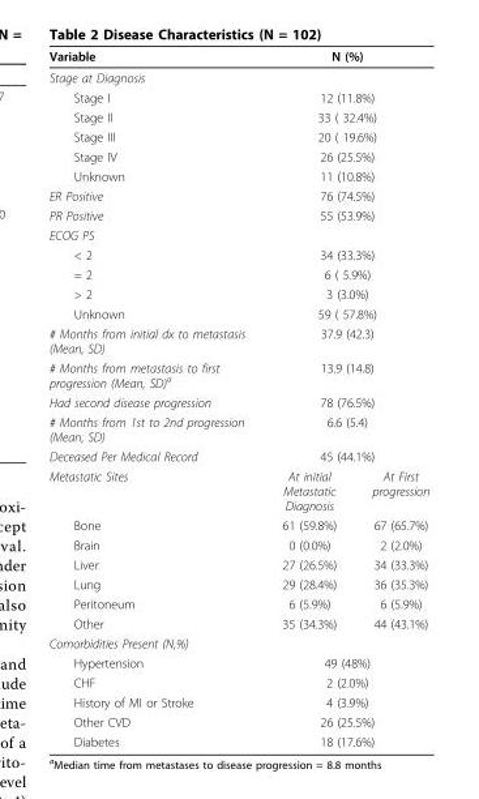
<table><thead><tr><td>Variable</td><td colspan="2">N (%)</td></tr></thead><tbody><tr><td colspan="3">Stage at Diagnosis</td></tr><tr><td>Stage I</td><td colspan="2">12 (11.8%)</td></tr><tr><td>Stage II</td><td colspan="2">33 ( 32.4%)</td></tr><tr><td>Stage III</td><td colspan="2">20 ( 19.6%)</td></tr><tr><td>Stage IV</td><td colspan="2">26 (25.5%)</td></tr><tr><td>Unknown</td><td colspan="2">11 (10.8%)</td></tr><tr><td>ER Positive</td><td colspan="2">76 (74.5%)</td></tr><tr><td>PR Positive</td><td colspan="2">55 (53.9%)</td></tr><tr><td colspan="3">ECOG PS</td></tr><tr><td>&lt; 2</td><td colspan="2">34 (33.3%)</td></tr><tr><td>= 2</td><td colspan="2">6 ( 5.9%)</td></tr><tr><td>&gt; 2</td><td colspan="2">3 (3.0%)</td></tr><tr><td>Unknown</td><td colspan="2">59 ( 57.8%)</td></tr><tr><td># Months from initial dx to metastasis (Mean, SD)</td><td colspan="2">37.9 (42.3)</td></tr><tr><td># Months from metastasis to first progression (Mean, SD)<sup>a</sup></td><td colspan="2">13.9 (14.8)</td></tr><tr><td>Had second disease progression</td><td colspan="2">78 (76.5%)</td></tr><tr><td># Months from 1st to 2nd progression (Mean, SD)</td><td colspan="2">6.6 (5.4)</td></tr><tr><td>Deceased Per Medical Record</td><td colspan="2">45 (44.1%)</td></tr><tr><td>Metastatic Sites</td><td>At initial Metastatic Diagnosis</td><td>At First progression</td></tr><tr><td>Bone</td><td>61 (59.8%)</td><td>67 (65.7%)</td></tr><tr><td>Brain</td><td>0 (0.0%)</td><td>2 (2.0%)</td></tr><tr><td>Liver</td><td>27 (26.5%)</td><td>34 (33.3%)</td></tr><tr><td>Lung</td><td>29 (28.4%)</td><td>36 (35.3%)</td></tr><tr><td>Peritoneum</td><td>6 (5.9%)</td><td>6 (5.9%)</td></tr><tr><td>Other</td><td>35 (34.3%)</td><td>44 (43.1%)</td></tr><tr><td colspan="3">Comorbidities Present (N,%)</td></tr><tr><td>Hypertension</td><td colspan="2">49 (48%)</td></tr><tr><td>CHF</td><td colspan="2">2 (2.0%)</td></tr><tr><td>History of MI or Stroke</td><td colspan="2">4 (3.9%)</td></tr><tr><td>Other CVD</td><td colspan="2">26 (25.5%)</td></tr><tr><td>Diabetes</td><td colspan="2">18 (17.6%)</td></tr></tbody></table>